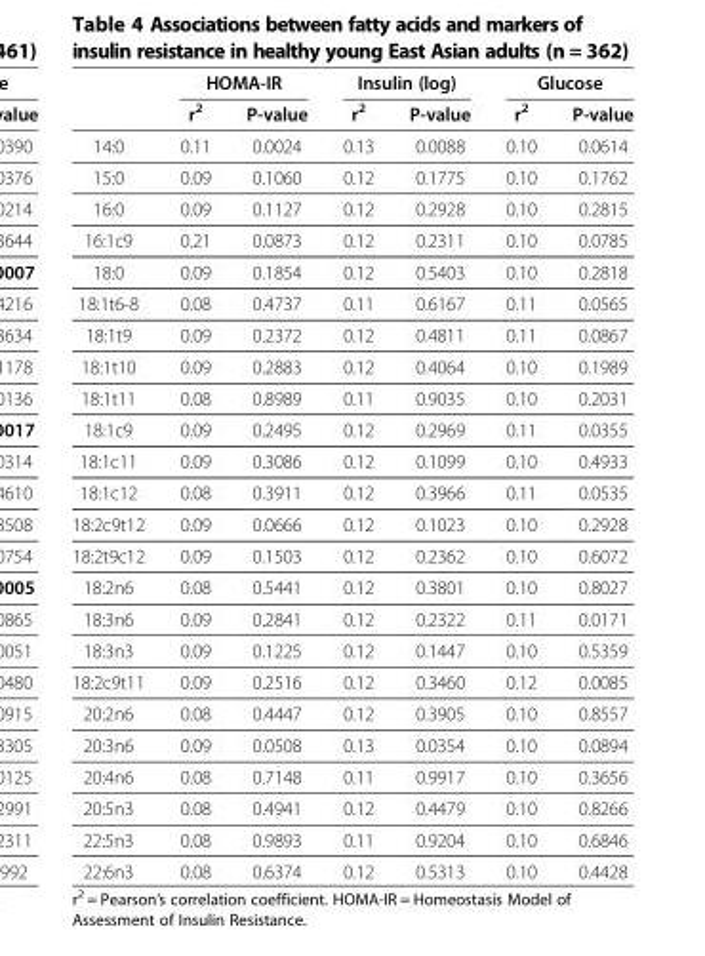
<table><thead><tr><td rowspan="2"></td><td colspan="2">HOMA-IR</td><td colspan="2">Insulin (log)</td><td colspan="2">Glucose</td></tr><tr><td>r<sup>2</sup></td><td>P-value</td><td>r<sup>2</sup></td><td>P-value</td><td>r<sup>2</sup></td><td>P-value</td></tr></thead><tbody><tr><td>14:0</td><td>0.11</td><td>0.0024</td><td>0.13</td><td>0.0088</td><td>0.10</td><td>0.0614</td></tr><tr><td>15:0</td><td>0.09</td><td>0.1060</td><td>0.12</td><td>0.1775</td><td>0.10</td><td>0.1762</td></tr><tr><td>16:0</td><td>0.09</td><td>0.1127</td><td>0.12</td><td>0.2928</td><td>0.10</td><td>0.2815</td></tr><tr><td>16:1c9</td><td>0.21</td><td>0.0873</td><td>0.12</td><td>0.2311</td><td>0.10</td><td>0.0785</td></tr><tr><td>18:0</td><td>0.09</td><td>0.1854</td><td>0.12</td><td>0.5403</td><td>0.10</td><td>0.2818</td></tr><tr><td>18:1t6-8</td><td>0.08</td><td>0.4737</td><td>0.11</td><td>0.6167</td><td>0.11</td><td>0.0565</td></tr><tr><td>18:1t9</td><td>0.09</td><td>0.2372</td><td>0.12</td><td>0.4811</td><td>0.11</td><td>0.0867</td></tr><tr><td>18:1t10</td><td>0.09</td><td>0.2883</td><td>0.12</td><td>0.4064</td><td>0.10</td><td>0.1989</td></tr><tr><td>18:1t11</td><td>0.08</td><td>0.8989</td><td>0.11</td><td>0.9035</td><td>0.10</td><td>0.2031</td></tr><tr><td>18:1c9</td><td>0.09</td><td>0.2495</td><td>0.12</td><td>0.2969</td><td>0.11</td><td>0.0355</td></tr><tr><td>18:1c11</td><td>0.09</td><td>0.3086</td><td>0.12</td><td>0.1099</td><td>0.10</td><td>0.4933</td></tr><tr><td>18:1c12</td><td>0.08</td><td>0.3911</td><td>0.12</td><td>0.3966</td><td>0.11</td><td>0.0535</td></tr><tr><td>18:2c9t12</td><td>0.09</td><td>0.0666</td><td>0.12</td><td>0.1023</td><td>0.10</td><td>0.2928</td></tr><tr><td>18:2t9c12</td><td>0.09</td><td>0.1503</td><td>0.12</td><td>0.2362</td><td>0.10</td><td>0.6072</td></tr><tr><td>18:2n6</td><td>0.08</td><td>0.5441</td><td>0.12</td><td>0.3801</td><td>0.10</td><td>0.8027</td></tr><tr><td>18:3n6</td><td>0.09</td><td>0.2841</td><td>0.12</td><td>0.2322</td><td>0.11</td><td>0.0171</td></tr><tr><td>18:3n3</td><td>0.09</td><td>0.1225</td><td>0.12</td><td>0.1447</td><td>0.10</td><td>0.5359</td></tr><tr><td>18:2c9t11</td><td>0.09</td><td>0.2516</td><td>0.12</td><td>0.3460</td><td>0.12</td><td>0.0085</td></tr><tr><td>20:2n6</td><td>0.08</td><td>0.4447</td><td>0.12</td><td>0.3905</td><td>0.10</td><td>0.8557</td></tr><tr><td>20:3n6</td><td>0.09</td><td>0.0508</td><td>0.13</td><td>0.0354</td><td>0.10</td><td>0.0894</td></tr><tr><td>20:4n6</td><td>0.08</td><td>0.7148</td><td>0.11</td><td>0.9917</td><td>0.10</td><td>0.3656</td></tr><tr><td>20:5n3</td><td>0.08</td><td>0.4941</td><td>0.12</td><td>0.4479</td><td>0.10</td><td>0.8266</td></tr><tr><td>22:5n3</td><td>0.08</td><td>0.9893</td><td>0.11</td><td>0.9204</td><td>0.10</td><td>0.6846</td></tr><tr><td>22:6n3</td><td>0.08</td><td>0.6374</td><td>0.12</td><td>0.5313</td><td>0.10</td><td>0.4428</td></tr></tbody></table>